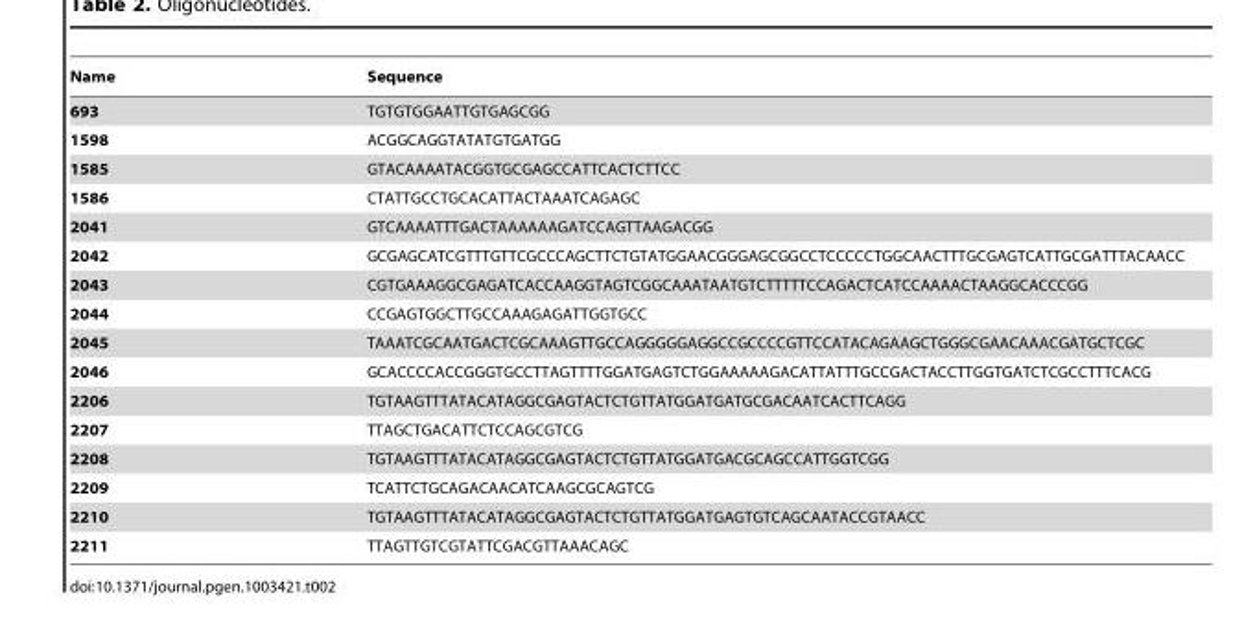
<table><thead><tr><td>Name</td><td>Sequence</td></tr></thead><tbody><tr><td>693</td><td>TGTGTGGAATTGTGAGCGG</td></tr><tr><td>1598</td><td>ACGGCAGGTATATGTGATGG</td></tr><tr><td>1585</td><td>GTACAAAATACGGTGCGAGCCATTCACTCTTCC</td></tr><tr><td>1586</td><td>CTATTGCCTGCACATTACTAAATCAGAGC</td></tr><tr><td>2041</td><td>GTCAAAATTTGACTAAAAAAGATCCAGTTAAGACGG</td></tr><tr><td>2042</td><td>GCGAGCATCGTTTGTTCGCCCAGCTTCTGTATGGAACGGGAGCGGCCTCCCCCTGGCAACTTTGCGAGTCATTGCGATTTACAACC</td></tr><tr><td>2043</td><td>CGTGAAAGGCGAGATCACCAAGGTAGTCGGCAAATAATGTCTTTTTCCAGACTCATCCAAAACTAAGGCACCCGG</td></tr><tr><td>2044</td><td>CCGAGTGGCTTGCCAAAGAGATTGGTGCC</td></tr><tr><td>2045</td><td>TAAATCGCAATGACTCGCAAAGTTGCCAGGGGGAGGCCGCCCCGTTCCATACAGAAGCTGGGCGAACAAACGATGCTCGC</td></tr><tr><td>2046</td><td>GCACCCCACCGGGTGCCTTAGTTTTGGATGAGTCTGGAAAAAGACATTATTTGCCGACTACCTTGGTGATCTCGCCTTTCACG</td></tr><tr><td>2206</td><td>TGTAAGTTTATACATAGGCGAGTACTCTGTTATGGATGATGCGACAATCACTTCAGG</td></tr><tr><td>2207</td><td>TTAGCTGACATTCTCCAGCGTCG</td></tr><tr><td>2208</td><td>TGTAAGTTTATACATAGGCGAGTACTCTGTTATGGATGACGCAGCCATTGGTCGG</td></tr><tr><td>2209</td><td>TCATTCTGCAGACAACATCAAGCGCAGTCG</td></tr><tr><td>2210</td><td>TGTAAGTTTATACATAGGCGAGTACTCTGTTATGGATGAGTGTCAGCAATACCGTAACC</td></tr><tr><td>2211</td><td>TTAGTTGTCGTATTCGACGTTAAACAGC</td></tr></tbody></table>